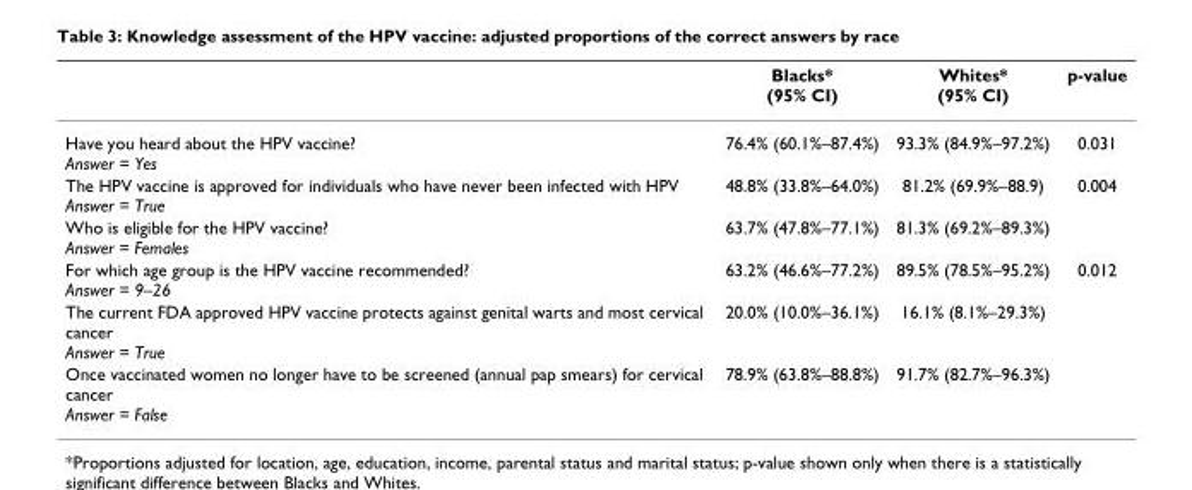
<table><thead><tr><td></td><td>Blacks* (95% CI)</td><td>Whites* (95% CI)</td><td>p-value</td></tr></thead><tbody><tr><td>Have you heard about the HPV vaccine? Answer = Yes</td><td>76.4% (60.1%–87.4%)</td><td>93.3% (84.9%–97.2%)</td><td>0.031</td></tr><tr><td>The HPV vaccine is approved for individuals who have never been infected with HPV Answer = True</td><td>48.8% (33.8%–64.0%)</td><td>81.2% (69.9%–88.9)</td><td>0.004</td></tr><tr><td>Who is eligible for the HPV vaccine? Answer = Females</td><td>63.7% (47.8%–77.1%)</td><td>81.3% (69.2%–89.3%)</td><td></td></tr><tr><td>For which age group is the HPV vaccine recommended? Answer = 9–26</td><td>63.2% (46.6%–77.2%)</td><td>89.5% (78.5%–95.2%)</td><td>0.012</td></tr><tr><td>The current FDA approved HPV vaccine protects against genital warts and most cervical cancer Answer = True</td><td>20.0% (10.0%–36.1%)</td><td>16.1% (8.1%–29.3%)</td><td></td></tr><tr><td>Once vaccinated women no longer have to be screened (annual pap smears) for cervical cancer Answer = False</td><td>78.9% (63.8%–88.8%)</td><td>91.7% (82.7%–96.3%)</td><td></td></tr></tbody></table>